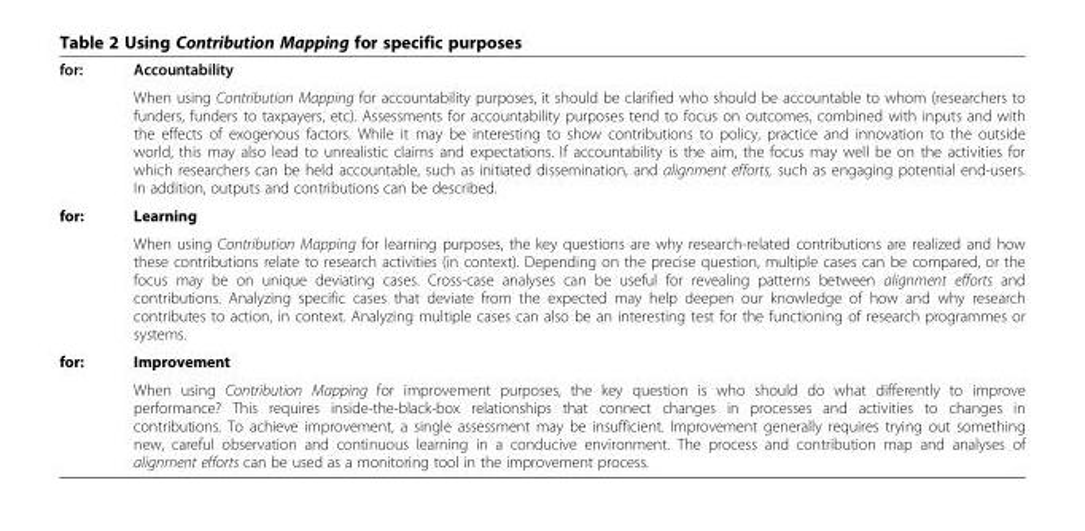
<table><thead><tr><td>for:</td><td>Accountability</td></tr></thead><tbody><tr><td></td><td>When using Contribution Mapping for accountability purposes, it should be clarified who should be accountable to whom (researchers to funders, funders to taxpayers, etc). Assessments for accountability purposes tend to focus on outcomes, combined with inputs and with the effects of exogenous factors. While it may be interesting to show contributions to policy, practice and innovation to the outside world, this may also lead to unrealistic claims and expectations. If accountability is the aim, the focus may well be on the activities for which researchers can be held accountable, such as initiated dissemination, and alignment efforts, such as engaging potential end-users. In addition, outputs and contributions can be described.</td></tr><tr><td rowspan="2">for:</td><td>Learning</td></tr><tr><td>When using Contribution Mapping for learning purposes, the key questions are why research-related contributions are realized and how these contributions relate to research activities (in context). Depending on the precise question, multiple cases can be compared, or the focus may be on unique deviating cases. Cross-case analyses can be useful for revealing patterns between alignment efforts and contributions. Analyzing specific cases that deviate from the expected may help deepen our knowledge of how and why research contributes to action, in context. Analyzing multiple cases can also be an interesting test for the functioning of research programmes or systems.</td></tr><tr><td rowspan="2">for:</td><td>Improvement</td></tr><tr><td>When using Contribution Mapping for improvement purposes, the key question is who should do what differently to improve performance? This requires inside-the-black-box relationships that connect changes in processes and activities to changes in contributions. To achieve improvement, a single assessment may be insufficient. Improvement generally requires trying out something new, careful observation and continuous learning in a conducive environment. The process and contribution map and analyses of alignment efforts can be used as a monitoring tool in the improvement process.</td></tr></tbody></table>